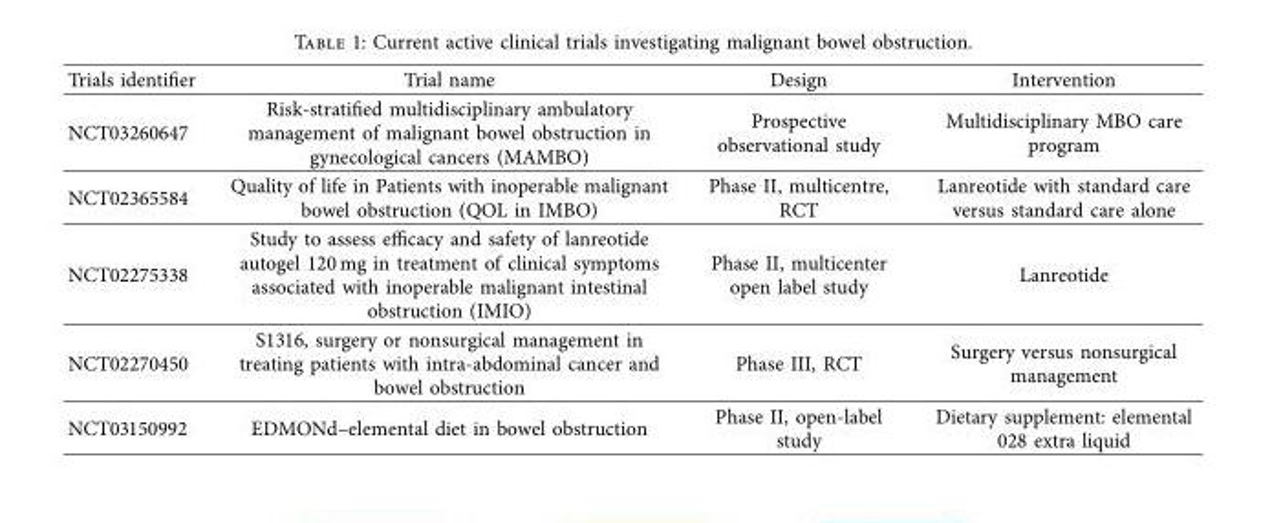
<table><thead><tr><td>Trials identifier</td><td>Trial name</td><td>Design</td><td>Intervention</td></tr></thead><tbody><tr><td>NCT03260647</td><td>Risk-stratified multidisciplinary ambulatory management of malignant bowel obstruction in gynecological cancers (MAMBO)</td><td>Prospective observational study</td><td>Multidisciplinary MBO care program</td></tr><tr><td>NCT02365584</td><td>Quality of life in Patients with inoperable malignant bowel obstruction (QOL in IMBO)</td><td>Phase II, multicentre, RCT</td><td>Lanreotide with standard care versus standard care alone</td></tr><tr><td>NCT02275338</td><td>Study to assess efficacy and safety of lanreotide autogel 120 mg in treatment of clinical symptoms associated with inoperable malignant intestinal obstruction (IMIO)</td><td>Phase II, multicenter open label study</td><td>Lanreotide</td></tr><tr><td>NCT02270450</td><td>S1316, surgery or nonsurgical management in treating patients with intra-abdominal cancer and bowel obstruction</td><td>Phase III, RCT</td><td>Surgery versus nonsurgical management</td></tr><tr><td>NCT03150992</td><td>EDMONd–elemental diet in bowel obstruction</td><td>Phase II, open-label study</td><td>Dietary supplement: elemental 028 extra liquid</td></tr></tbody></table>